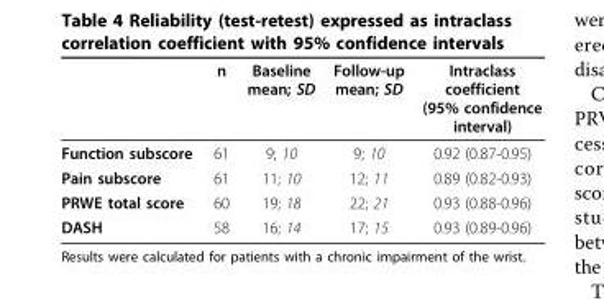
<table><thead><tr><td></td><td>n</td><td>Baseline mean; SD</td><td>Follow-up mean; SD</td><td>Intraclass coefficient (95% confidence interval)</td></tr></thead><tbody><tr><td>Function subscore</td><td>61</td><td>9; 10</td><td>9; 10</td><td>0.92 (0.87-0.95)</td></tr><tr><td>Pain subscore</td><td>61</td><td>11; 10</td><td>12; 11</td><td>0.89 (0.82-0.93)</td></tr><tr><td>PRWE total score</td><td>60</td><td>19; 18</td><td>22; 21</td><td>0.93 (0.88-0.96)</td></tr><tr><td>DASH</td><td>58</td><td>16; 14</td><td>17; 15</td><td>0.93 (0.89-0.96)</td></tr></tbody></table>